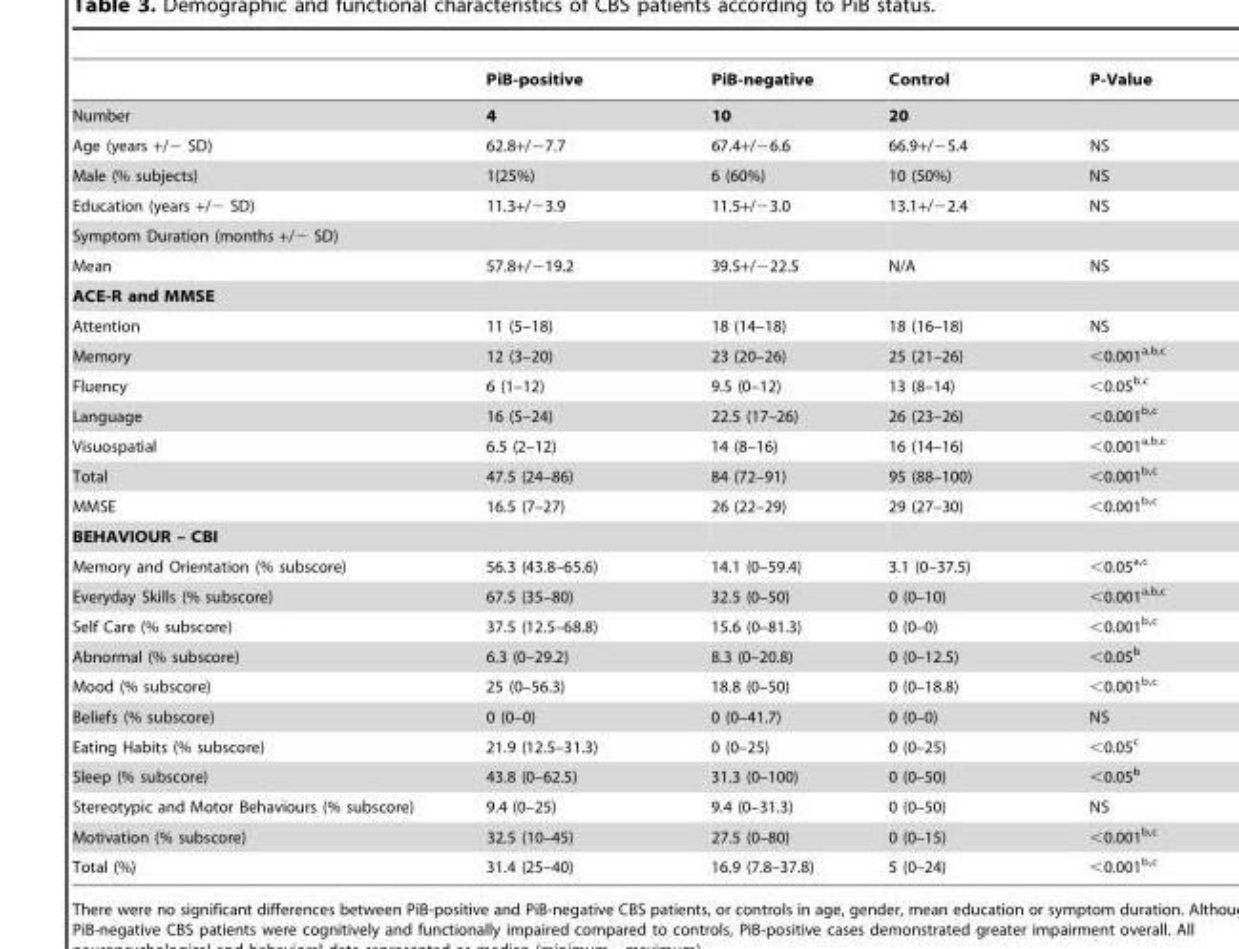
<table><thead><tr><td></td><td>PiB-positive</td><td>PiB-negative</td><td>Control</td><td>P-Value</td></tr></thead><tbody><tr><td>Number</td><td>4</td><td>10</td><td>20</td><td></td></tr><tr><td>Age (years +/− SD)</td><td>62.8+/−7.7</td><td>67.4+/−6.6</td><td>66.9+/−5.4</td><td>NS</td></tr><tr><td>Male (% subjects)</td><td>1(25%)</td><td>6 (60%)</td><td>10 (50%)</td><td>NS</td></tr><tr><td>Education (years +/− SD)</td><td>11.3+/−3.9</td><td>11.5+/−3.0</td><td>13.1+/−2.4</td><td>NS</td></tr><tr><td colspan="5">Symptom Duration (months +/− SD)</td></tr><tr><td>Mean</td><td>57.8+/−19.2</td><td>39.5+/−22.5</td><td>N/A</td><td>NS</td></tr><tr><td colspan="5">ACE-R and MMSE</td></tr><tr><td>Attention</td><td>11 (5–18)</td><td>18 (14–18)</td><td>18 (16–18)</td><td>NS</td></tr><tr><td>Memory</td><td>12 (3–20)</td><td>23 (20–26)</td><td>25 (21–26)</td><td>&lt;0.001a,b,c</td></tr><tr><td>Fluency</td><td>6 (1–12)</td><td>9.5 (0–12)</td><td>13 (8–14)</td><td>&lt;0.05b,c</td></tr><tr><td>Language</td><td>16 (5–24)</td><td>22.5 (17–26)</td><td>26 (23–26)</td><td>&lt;0.001b,c</td></tr><tr><td>Visuospatial</td><td>6.5 (2–12)</td><td>14 (8–16)</td><td>16 (14–16)</td><td>&lt;0.001a,b,c</td></tr><tr><td>Total</td><td>47.5 (24–86)</td><td>84 (72–91)</td><td>95 (88–100)</td><td>&lt;0.001b,c</td></tr><tr><td>MMSE</td><td>16.5 (7–27)</td><td>26 (22–29)</td><td>29 (27–30)</td><td>&lt;0.001b,c</td></tr><tr><td colspan="5">BEHAVIOUR – CBI</td></tr><tr><td>Memory and Orientation (% subscore)</td><td>56.3 (43.8–65.6)</td><td>14.1 (0–59.4)</td><td>3.1 (0–37.5)</td><td>&lt;0.05a,c</td></tr><tr><td>Everyday Skills (% subscore)</td><td>67.5 (35–80)</td><td>32.5 (0–50)</td><td>0 (0–10)</td><td>&lt;0.001a,b,c</td></tr><tr><td>Self Care (% subscore)</td><td>37.5 (12.5–68.8)</td><td>15.6 (0–81.3)</td><td>0 (0–0)</td><td>&lt;0.001b,c</td></tr><tr><td>Abnormal (% subscore)</td><td>6.3 (0–29.2)</td><td>8.3 (0–20.8)</td><td>0 (0–12.5)</td><td>&lt;0.05<sup>b</sup></td></tr><tr><td>Mood (% subscore)</td><td>25 (0–56.3)</td><td>18.8 (0–50)</td><td>0 (0–18.8)</td><td>&lt;0.001b,c</td></tr><tr><td>Beliefs (% subscore)</td><td>0 (0–0)</td><td>0 (0–41.7)</td><td>0 (0–0)</td><td>NS</td></tr><tr><td>Eating Habits (% subscore)</td><td>21.9 (12.5–31.3)</td><td>0 (0–25)</td><td>0 (0–25)</td><td>&lt;0.05<sup>c</sup></td></tr><tr><td>Sleep (% subscore)</td><td>43.8 (0–62.5)</td><td>31.3 (0–100)</td><td>0 (0–50)</td><td>&lt;0.05<sup>b</sup></td></tr><tr><td>Stereotypic and Motor Behaviours (% subscore)</td><td>9.4 (0–25)</td><td>9.4 (0–31.3)</td><td>0 (0–50)</td><td>NS</td></tr><tr><td>Motivation (% subscore)</td><td>32.5 (10–45)</td><td>27.5 (0–80)</td><td>0 (0–15)</td><td>&lt;0.001b,c</td></tr><tr><td>Total (%)</td><td>31.4 (25–40)</td><td>16.9 (7.8–37.8)</td><td>5 (0–24)</td><td>&lt;0.001b,c</td></tr></tbody></table>